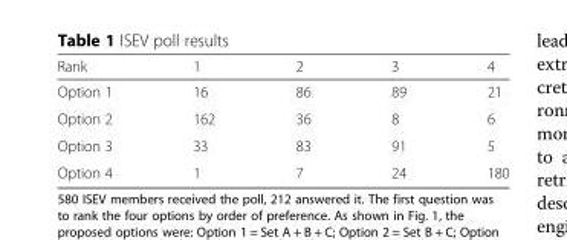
<table><thead><tr><td>Rank</td><td>1</td><td>2</td><td>3</td><td>4</td></tr></thead><tbody><tr><td>Option 1</td><td>16</td><td>86</td><td>89</td><td>21</td></tr><tr><td>Option 2</td><td>162</td><td>36</td><td>8</td><td>6</td></tr><tr><td>Option 3</td><td>33</td><td>83</td><td>91</td><td>5</td></tr><tr><td>Option 4</td><td>1</td><td>7</td><td>24</td><td>180</td></tr></tbody></table>